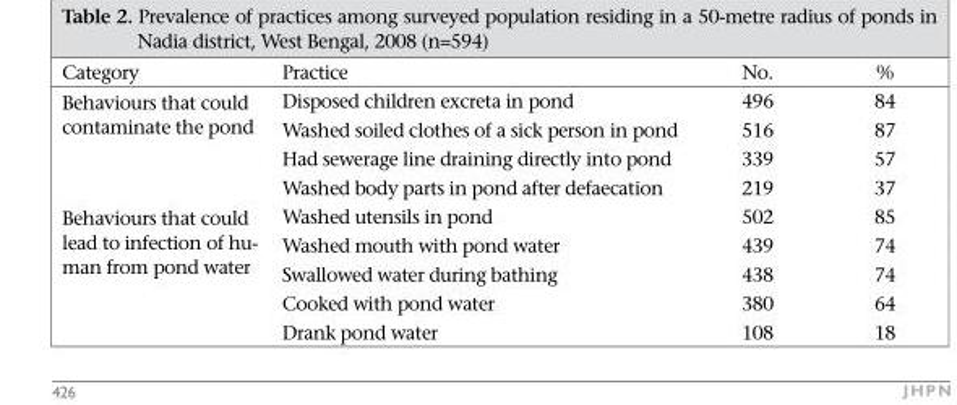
<table><thead><tr><td>Category</td><td>Practice</td><td>No.</td><td>%</td></tr></thead><tbody><tr><td rowspan="4">Behaviours that could contaminate the pond</td><td>Disposed children excreta in pond</td><td>496</td><td>84</td></tr><tr><td>Washed soiled clothes of a sick person in pond</td><td>516</td><td>87</td></tr><tr><td>Had sewerage line draining directly into pond</td><td>339</td><td>57</td></tr><tr><td>Washed body parts in pond after defaecation</td><td>219</td><td>37</td></tr><tr><td rowspan="5">Behaviours that could lead to infection of hu- man from pond water</td><td>Washed utensils in pond</td><td>502</td><td>85</td></tr><tr><td>Washed mouth with pond water</td><td>439</td><td>74</td></tr><tr><td>Swallowed water during bathing</td><td>438</td><td>74</td></tr><tr><td>Cooked with pond water</td><td>380</td><td>64</td></tr><tr><td>Drank pond water</td><td>108</td><td>18</td></tr></tbody></table>